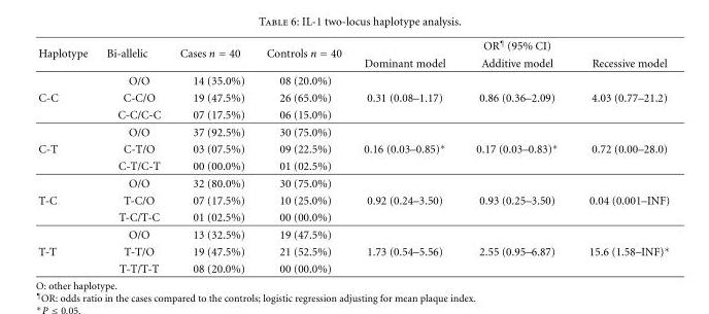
<table><thead><tr><td rowspan="2">Haplotype</td><td rowspan="2">Bi-allelic</td><td rowspan="2">Cases n = 40</td><td rowspan="2">Controls n = 40</td><td colspan="3">OR<sup>¶</sup> (95% CI)</td></tr><tr><td>Dominant model</td><td>Additive model</td><td>Recessive model</td></tr></thead><tbody><tr><td></td><td>O/O</td><td>14 (35.0%)</td><td>08 (20.0%)</td><td></td><td></td><td></td></tr><tr><td rowspan="3">C-C</td><td>C-C/O</td><td>19 (47.5%)</td><td>26 (65.0%)</td><td>0.31 (0.08–1.17)</td><td>0.86 (0.36–2.09)</td><td>4.03 (0.77–21.2)</td></tr><tr><td>C-C/C-C</td><td>07 (17.5%)</td><td>06 (15.0%)</td><td></td><td></td><td></td></tr><tr><td>O/O</td><td>37 (92.5%)</td><td>30 (75.0%)</td><td></td><td></td><td></td></tr><tr><td rowspan="3">C-T</td><td>C-T/O</td><td>03 (07.5%)</td><td>09 (22.5%)</td><td>0.16 (0.03–0.85)∗</td><td>0.17 (0.03–0.83)∗</td><td>0.72 (0.00–28.0)</td></tr><tr><td>C-T/C-T</td><td>00 (00.0%)</td><td>01 (02.5%)</td><td></td><td></td><td></td></tr><tr><td>O/O</td><td>32 (80.0%)</td><td>30 (75.0%)</td><td></td><td></td><td></td></tr><tr><td rowspan="3">T-C</td><td>T-C/O</td><td>07 (17.5%)</td><td>10 (25.0%)</td><td>0.92 (0.24–3.50)</td><td>0.93 (0.25–3.50)</td><td>0.04 (0.001–INF)</td></tr><tr><td>T-C/T-C</td><td>01 (02.5%)</td><td>00 (00.0%)</td><td></td><td></td><td></td></tr><tr><td>O/O</td><td>13 (32.5%)</td><td>19 (47.5%)</td><td></td><td></td><td></td></tr><tr><td rowspan="2">T-T</td><td>T-T/O</td><td>19 (47.5%)</td><td>21 (52.5%)</td><td>1.73 (0.54–5.56)</td><td>2.55 (0.95–6.87)</td><td>15.6 (1.58–INF)∗</td></tr><tr><td>T-T/T-T</td><td>08 (20.0%)</td><td>00 (00.0%)</td><td></td><td></td><td></td></tr></tbody></table>